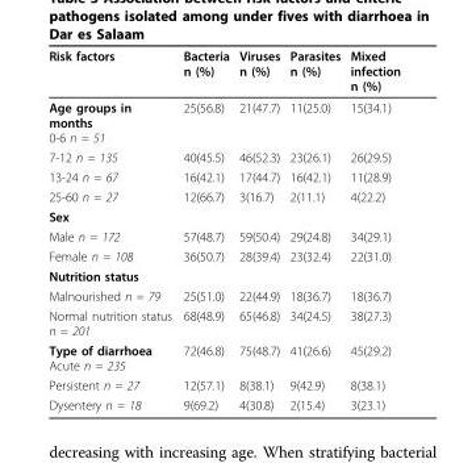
<table><thead><tr><td>Risk factors</td><td>Bacteria n (%)</td><td>Viruses n (%)</td><td>Parasites n (%)</td><td>Mixed infection n (%)</td></tr></thead><tbody><tr><td>Age groups in months 0-6 n = 51</td><td>25(56.8)</td><td>21(47.7)</td><td>11(25.0)</td><td>15(34.1)</td></tr><tr><td>7-12 n = 135</td><td>40(45.5)</td><td>46(52.3)</td><td>23(26.1)</td><td>26(29.5)</td></tr><tr><td>13-24 n = 67</td><td>16(42.1)</td><td>17(44.7)</td><td>16(42.1)</td><td>11(28.9)</td></tr><tr><td>25-60 n = 27</td><td>12(66.7)</td><td>3(16.7)</td><td>2(11.1)</td><td>4(22.2)</td></tr><tr><td colspan="5">Sex</td></tr><tr><td>Male n = 172</td><td>57(48.7)</td><td>59(50.4)</td><td>29(24.8)</td><td>34(29.1)</td></tr><tr><td>Female n = 108</td><td>36(50.7)</td><td>28(39.4)</td><td>23(32.4)</td><td>22(31.0)</td></tr><tr><td colspan="5">Nutrition status</td></tr><tr><td>Malnourished n = 79</td><td>25(51.0)</td><td>22(44.9)</td><td>18(36.7)</td><td>18(36.7)</td></tr><tr><td>Normal nutrition status n = 201</td><td>68(48.9)</td><td>65(46.8)</td><td>34(24.5)</td><td>38(27.3)</td></tr><tr><td>Type of diarrhoea Acute n = 235</td><td>72(46.8)</td><td>75(48.7)</td><td>41(26.6)</td><td>45(29.2)</td></tr><tr><td>Persistent n = 27</td><td>12(57.1)</td><td>8(38.1)</td><td>9(42.9)</td><td>8(38.1)</td></tr><tr><td>Dysentery n = 18</td><td>9(69.2)</td><td>4(30.8)</td><td>2(15.4)</td><td>3(23.1)</td></tr></tbody></table>